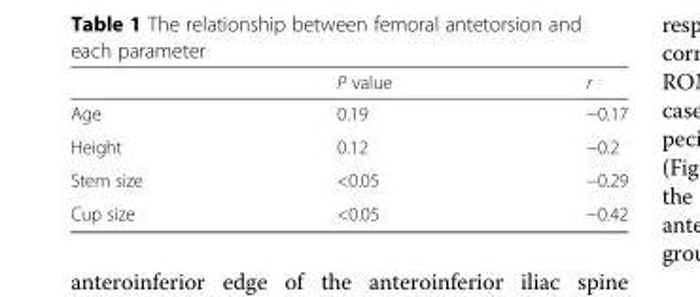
<table><thead><tr><td></td><td>P value</td><td>r</td></tr></thead><tbody><tr><td>Age</td><td>0.19</td><td>−0.17</td></tr><tr><td>Height</td><td>0.12</td><td>−0.2</td></tr><tr><td>Stem size</td><td>&lt;0.05</td><td>−0.29</td></tr><tr><td>Cup size</td><td>&lt;0.05</td><td>−0.42</td></tr></tbody></table>